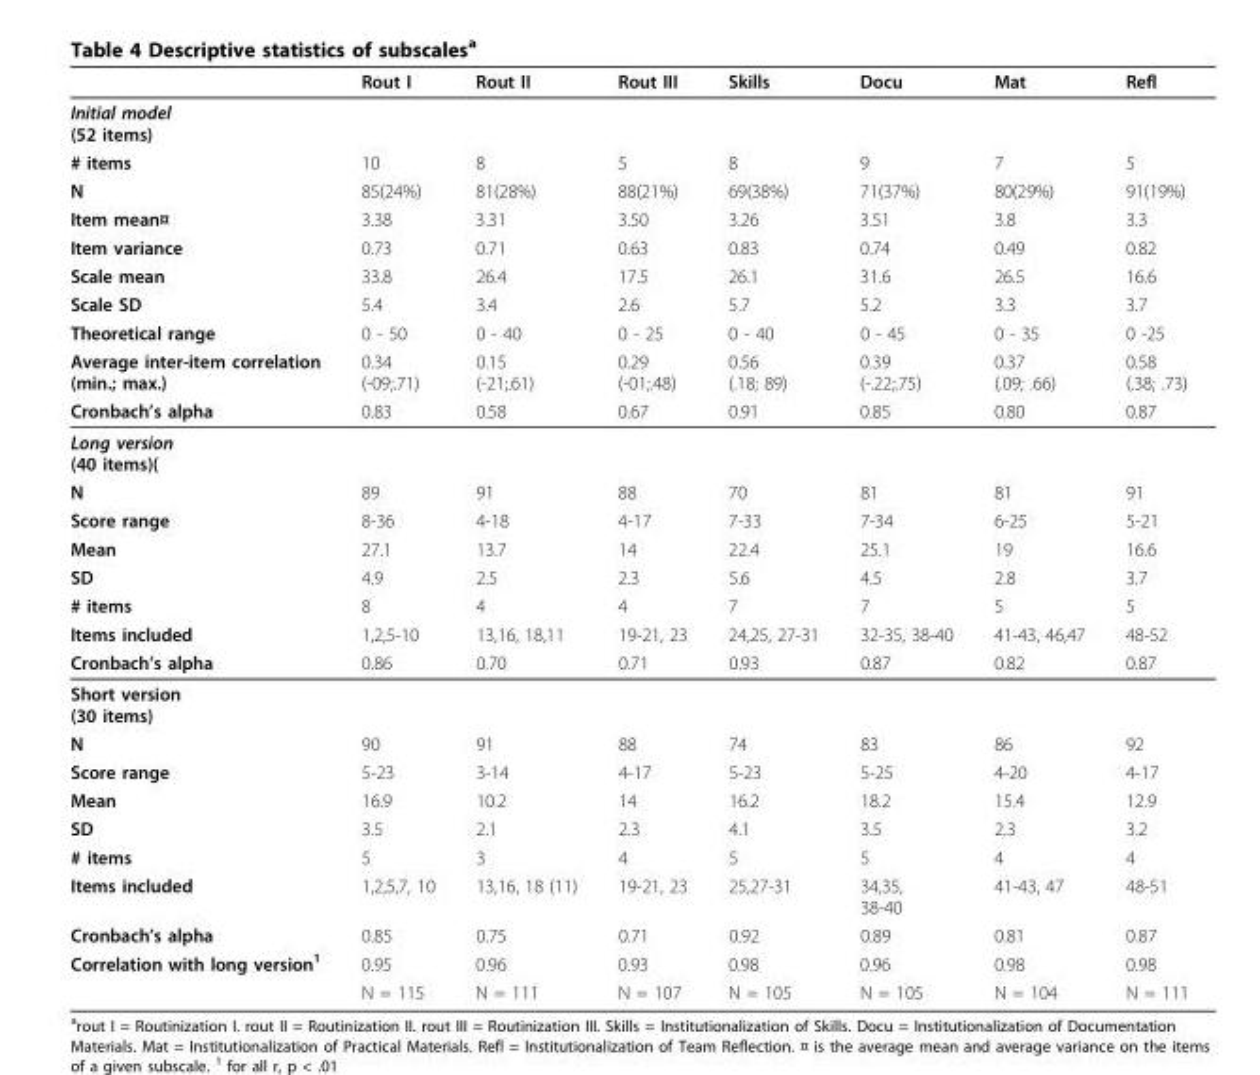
<table><thead><tr><td></td><td>Rout I</td><td>Rout II</td><td>Rout III</td><td>Skills</td><td>Docu</td><td>Mat</td><td>Refl</td></tr></thead><tbody><tr><td colspan="8">Initial model (52 items)</td></tr><tr><td># items</td><td>10</td><td>8</td><td>5</td><td>8</td><td>9</td><td>7</td><td>5</td></tr><tr><td>N</td><td>85(24%)</td><td>81(28%)</td><td>88(21%)</td><td>69(38%)</td><td>71(37%)</td><td>80(29%)</td><td>91(19%)</td></tr><tr><td>Item mean¤</td><td>3.38</td><td>3.31</td><td>3.50</td><td>3.26</td><td>3.51</td><td>3.8</td><td>3.3</td></tr><tr><td>Item variance</td><td>0.73</td><td>0.71</td><td>0.63</td><td>0.83</td><td>0.74</td><td>0.49</td><td>0.82</td></tr><tr><td>Scale mean</td><td>33.8</td><td>26.4</td><td>17.5</td><td>26.1</td><td>31.6</td><td>26.5</td><td>16.6</td></tr><tr><td>Scale SD</td><td>5.4</td><td>3.4</td><td>2.6</td><td>5.7</td><td>5.2</td><td>3.3</td><td>3.7</td></tr><tr><td>Theoretical range</td><td>0 - 50</td><td>0 - 40</td><td>0 - 25</td><td>0 - 40</td><td>0 - 45</td><td>0 - 35</td><td>0 -25</td></tr><tr><td>Average inter-item correlation (min.; max.)</td><td>0.34 (-09;.71)</td><td>0.15 (-21;.61)</td><td>0.29 (-01;.48)</td><td>0.56 (.18; 89)</td><td>0.39 (-.22;.75)</td><td>0.37 (.09; .66)</td><td>0.58 (.38; .73)</td></tr><tr><td>Cronbach’s alpha</td><td>0.83</td><td>0.58</td><td>0.67</td><td>0.91</td><td>0.85</td><td>0.80</td><td>0.87</td></tr><tr><td colspan="8">Long version (40 items)(</td></tr><tr><td>N</td><td>89</td><td>91</td><td>88</td><td>70</td><td>81</td><td>81</td><td>91</td></tr><tr><td>Score range</td><td>8-36</td><td>4-18</td><td>4-17</td><td>7-33</td><td>7-34</td><td>6-25</td><td>5-21</td></tr><tr><td>Mean</td><td>27.1</td><td>13.7</td><td>14</td><td>22.4</td><td>25.1</td><td>19</td><td>16.6</td></tr><tr><td>SD</td><td>4.9</td><td>2.5</td><td>2.3</td><td>5.6</td><td>4.5</td><td>2.8</td><td>3.7</td></tr><tr><td># items</td><td>8</td><td>4</td><td>4</td><td>7</td><td>7</td><td>5</td><td>5</td></tr><tr><td>Items included</td><td>1,2,5-10</td><td>13,16, 18,11</td><td>19-21, 23</td><td>24,25, 27-31</td><td>32-35, 38-40</td><td>41-43, 46,47</td><td>48-52</td></tr><tr><td>Cronbach’s alpha</td><td>0.86</td><td>0.70</td><td>0.71</td><td>0.93</td><td>0.87</td><td>0.82</td><td>0.87</td></tr><tr><td colspan="8">Short version (30 items)</td></tr><tr><td>N</td><td>90</td><td>91</td><td>88</td><td>74</td><td>83</td><td>86</td><td>92</td></tr><tr><td>Score range</td><td>5-23</td><td>3-14</td><td>4-17</td><td>5-23</td><td>5-25</td><td>4-20</td><td>4-17</td></tr><tr><td>Mean</td><td>16.9</td><td>10.2</td><td>14</td><td>16.2</td><td>18.2</td><td>15.4</td><td>12.9</td></tr><tr><td>SD</td><td>3.5</td><td>2.1</td><td>2.3</td><td>4.1</td><td>3.5</td><td>2.3</td><td>3.2</td></tr><tr><td># items</td><td>5</td><td>3</td><td>4</td><td>5</td><td>5</td><td>4</td><td>4</td></tr><tr><td>Items included</td><td>1,2,5,7, 10</td><td>13,16, 18 (11)</td><td>19-21, 23</td><td>25,27-31</td><td>34,35, 38-40</td><td>41-43, 47</td><td>48-51</td></tr><tr><td>Cronbach’s alpha</td><td>0.85</td><td>0.75</td><td>0.71</td><td>0.92</td><td>0.89</td><td>0.81</td><td>0.87</td></tr><tr><td rowspan="2">Correlation with long version<sup>1</sup></td><td>0.95</td><td>0.96</td><td>0.93</td><td>0.98</td><td>0.96</td><td>0.98</td><td>0.98</td></tr><tr><td>N = 115</td><td>N = 111</td><td>N = 107</td><td>N = 105</td><td>N = 105</td><td>N = 104</td><td>N = 111</td></tr></tbody></table>